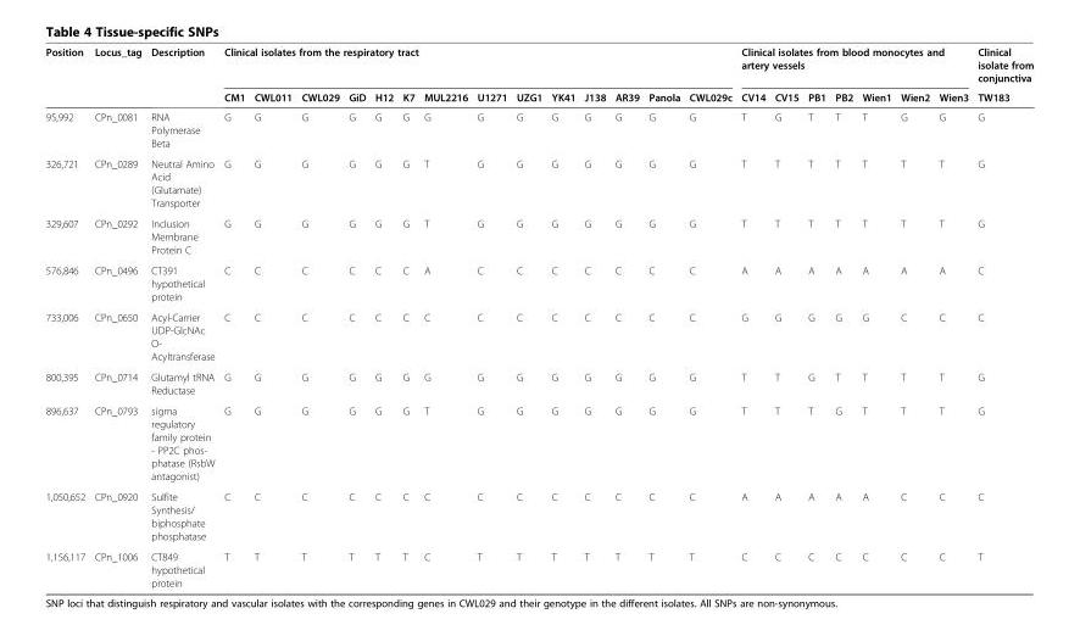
<table><thead><tr><td rowspan="2">Position</td><td rowspan="2">Locus_tag</td><td rowspan="2">Description</td><td colspan="14">Clinical isolates from the respiratory tract</td><td colspan="7">Clinical isolates from blood monocytes and artery vessels</td><td rowspan="2">Clinical isolate from conjunctiva TW183</td></tr><tr><td>CM1</td><td>CWL011</td><td>CWL029</td><td>GiD</td><td>H12</td><td>K7</td><td>MUL2216</td><td>U1271</td><td>UZG1</td><td>YK41</td><td>J138</td><td>AR39</td><td>Panola</td><td>CWL029c</td><td>CV14</td><td>CV15</td><td>PB1</td><td>PB2</td><td>Wien1</td><td>Wien2</td><td>Wien3</td></tr></thead><tbody><tr><td>95,992</td><td>CPn_0081</td><td>RNA Polymerase Beta</td><td>G</td><td>G</td><td>G</td><td>G</td><td>G</td><td>G</td><td>G</td><td>G</td><td>G</td><td>G</td><td>G</td><td>G</td><td>G</td><td>G</td><td>T</td><td>G</td><td>T</td><td>T</td><td>T</td><td>G</td><td>G</td><td>G</td></tr><tr><td>326,721</td><td>CPn_0289</td><td>Neutral Amino Acid (Glutamate) Transporter</td><td>G</td><td>G</td><td>G</td><td>G</td><td>G</td><td>G</td><td>T</td><td>G</td><td>G</td><td>G</td><td>G</td><td>G</td><td>G</td><td>G</td><td>T</td><td>T</td><td>T</td><td>T</td><td>T</td><td>T</td><td>T</td><td>G</td></tr><tr><td>329,607</td><td>CPn_0292</td><td>Inclusion Membrane Protein C</td><td>G</td><td>G</td><td>G</td><td>G</td><td>G</td><td>G</td><td>T</td><td>G</td><td>G</td><td>G</td><td>G</td><td>G</td><td>G</td><td>G</td><td>T</td><td>T</td><td>T</td><td>T</td><td>T</td><td>T</td><td>T</td><td>G</td></tr><tr><td>576,846</td><td>CPn_0496</td><td>CT391 hypothetical protein</td><td>C</td><td>C</td><td>C</td><td>C</td><td>C</td><td>C</td><td>A</td><td>C</td><td>C</td><td>C</td><td>C</td><td>C</td><td>C</td><td>C</td><td>A</td><td>A</td><td>A</td><td>A</td><td>A</td><td>A</td><td>A</td><td>C</td></tr><tr><td>733,006</td><td>CPn_0650</td><td>Acyl-Carrier UDP-GlcNAc O- Acyltransferase</td><td>C</td><td>C</td><td>C</td><td>C</td><td>C</td><td>C</td><td>C</td><td>C</td><td>C</td><td>C</td><td>C</td><td>C</td><td>C</td><td>C</td><td>G</td><td>G</td><td>G</td><td>G</td><td>G</td><td>C</td><td>C</td><td>C</td></tr><tr><td>800,395</td><td>CPn_0714</td><td>Glutamyl tRNA Reductase</td><td>G</td><td>G</td><td>G</td><td>G</td><td>G</td><td>G</td><td>G</td><td>G</td><td>G</td><td>G</td><td>G</td><td>G</td><td>G</td><td>G</td><td>T</td><td>T</td><td>G</td><td>T</td><td>T</td><td>T</td><td>T</td><td>G</td></tr><tr><td>896,637</td><td>CPn_0793</td><td>sigma regulatory family protein - PP2C phos- phatase (RsbW antagonist)</td><td>G</td><td>G</td><td>G</td><td>G</td><td>G</td><td>G</td><td>T</td><td>G</td><td>G</td><td>G</td><td>G</td><td>G</td><td>G</td><td>G</td><td>T</td><td>T</td><td>T</td><td>G</td><td>T</td><td>T</td><td>T</td><td>G</td></tr><tr><td>1,050,652</td><td>CPn_0920</td><td>Sulfite Synthesis/ biphosphate phosphatase</td><td>C</td><td>C</td><td>C</td><td>C</td><td>C</td><td>C</td><td>C</td><td>C</td><td>C</td><td>C</td><td>C</td><td>C</td><td>C</td><td>C</td><td>A</td><td>A</td><td>A</td><td>A</td><td>A</td><td>C</td><td>C</td><td>C</td></tr><tr><td>1,156,117</td><td>CPn_1006</td><td>CT849 hypothetical protein</td><td>T</td><td>T</td><td>T</td><td>T</td><td>T</td><td>T</td><td>C</td><td>T</td><td>T</td><td>T</td><td>T</td><td>T</td><td>T</td><td>T</td><td>C</td><td>C</td><td>C</td><td>C</td><td>C</td><td>C</td><td>C</td><td>T</td></tr></tbody></table>